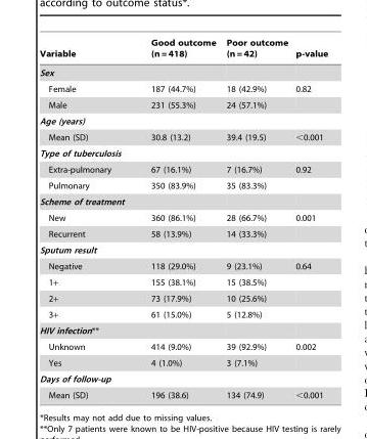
<table><thead><tr><td>Variable</td><td>Good outcome (n = 418)</td><td>Poor outcome (n = 42)</td><td>p-value</td></tr></thead><tbody><tr><td colspan="4">Sex</td></tr><tr><td>Female</td><td>187 (44.7%)</td><td>18 (42.9%)</td><td>0.82</td></tr><tr><td>Male</td><td>231 (55.3%)</td><td>24 (57.1%)</td><td></td></tr><tr><td colspan="4">Age (years)</td></tr><tr><td>Mean (SD)</td><td>30.8 (13.2)</td><td>39.4 (19.5)</td><td>&lt;0.001</td></tr><tr><td colspan="4">Type of tuberculosis</td></tr><tr><td>Extra-pulmonary</td><td>67 (16.1%)</td><td>7 (16.7%)</td><td>0.92</td></tr><tr><td>Pulmonary</td><td>350 (83.9%)</td><td>35 (83.3%)</td><td></td></tr><tr><td colspan="4">Scheme of treatment</td></tr><tr><td>New</td><td>360 (86.1%)</td><td>28 (66.7%)</td><td>0.001</td></tr><tr><td>Recurrent</td><td>58 (13.9%)</td><td>14 (33.3%)</td><td></td></tr><tr><td colspan="4">Sputum result</td></tr><tr><td>Negative</td><td>118 (29.0%)</td><td>9 (23.1%)</td><td>0.64</td></tr><tr><td>1+</td><td>155 (38.1%)</td><td>15 (38.5%)</td><td></td></tr><tr><td>2+</td><td>73 (17.9%)</td><td>10 (25.6%)</td><td></td></tr><tr><td>3+</td><td>61 (15.0%)</td><td>5 (12.8%)</td><td></td></tr><tr><td colspan="4">HIV infection**</td></tr><tr><td>Unknown</td><td>414 (9.0%)</td><td>39 (92.9%)</td><td>0.002</td></tr><tr><td>Yes</td><td>4 (1.0%)</td><td>3 (7.1%)</td><td></td></tr><tr><td colspan="4">Days of follow-up</td></tr><tr><td>Mean (SD)</td><td>196 (38.6)</td><td>134 (74.9)</td><td>&lt;0.001</td></tr></tbody></table>